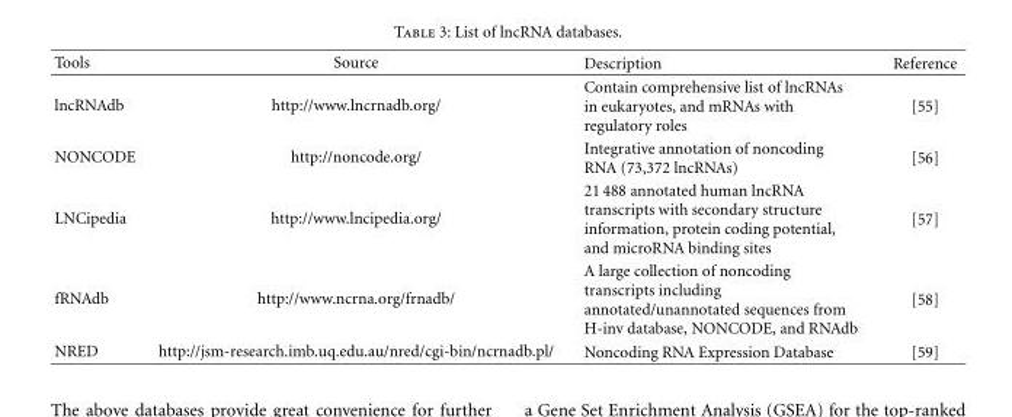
<table><thead><tr><td>Tools</td><td>Source</td><td>Description</td><td>Reference</td></tr></thead><tbody><tr><td>lncRNAdb</td><td>http://www.lncrnadb.org/</td><td>Contain comprehensive list of lncRNAs in eukaryotes, and mRNAs with regulatory roles</td><td>[55]</td></tr><tr><td>NONCODE</td><td>http://noncode.org/</td><td>Integrative annotation of noncoding RNA (73,372 lncRNAs)</td><td>[56]</td></tr><tr><td>LNCipedia</td><td>http://www.lncipedia.org/</td><td>21 488 annotated human lncRNA transcripts with secondary structure information, protein coding potential, and microRNA binding sites</td><td>[57]</td></tr><tr><td>fRNAdb</td><td>http://www.ncrna.org/frnadb/</td><td>A large collection of noncoding transcripts including annotated/unannotated sequences from H-inv database, NONCODE, and RNAdb</td><td>[58]</td></tr><tr><td>NRED</td><td>http://jsm-research.imb.uq.edu.au/nred/cgi-bin/ncrnadb.pl/</td><td>Noncoding RNA Expression Database</td><td>[59]</td></tr></tbody></table>